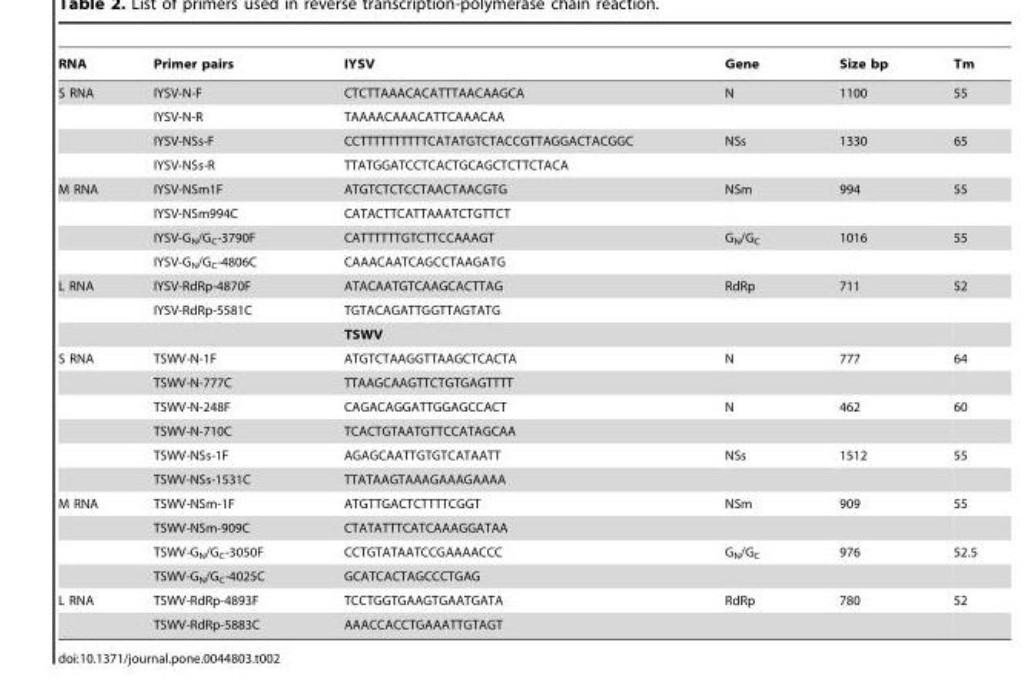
<table><thead><tr><td>RNA</td><td>Primer pairs</td><td>IYSV</td><td>Gene</td><td>Size bp</td><td>Tm</td></tr></thead><tbody><tr><td rowspan="4">S RNA</td><td>IYSV-N-F</td><td>CTCTTAAACACATTTAACAAGCA</td><td>N</td><td>1100</td><td>55</td></tr><tr><td>IYSV-N-R</td><td>TAAAACAAACATTCAAACAA</td><td></td><td></td><td></td></tr><tr><td>IYSV-NSs-F</td><td>CCTTTTTTTTTTCATATGTCTACCGTTAGGACTACGGC</td><td>NSs</td><td>1330</td><td>65</td></tr><tr><td>IYSV-NSs-R</td><td>TTATGGATCCTCACTGCAGCTCTTCTACA</td><td></td><td></td><td></td></tr><tr><td rowspan="4">M RNA</td><td>IYSV-NSm1F</td><td>ATGTCTCTCCTAACTAACGTG</td><td>NSm</td><td>994</td><td>55</td></tr><tr><td>IYSV-NSm994C</td><td>CATACTTCATTAAATCTGTTCT</td><td></td><td></td><td></td></tr><tr><td>IYSV-G<sub>N</sub>/G<sub>C</sub>-3790F</td><td>CATTTTTTGTCTTCCAAAGT</td><td>G<sub>N</sub>/G<sub>C</sub></td><td>1016</td><td>55</td></tr><tr><td>IYSV-G<sub>N</sub>/G<sub>C</sub>-4806C</td><td>CAAACAATCAGCCTAAGATG</td><td></td><td></td><td></td></tr><tr><td rowspan="3">L RNA</td><td>IYSV-RdRp-4870F</td><td>ATACAATGTCAAGCACTTAG</td><td>RdRp</td><td>711</td><td>52</td></tr><tr><td>IYSV-RdRp-5581C</td><td>TGTACAGATTGGTTAGTATG</td><td></td><td></td><td></td></tr><tr><td></td><td>TSWV</td><td></td><td></td><td></td></tr><tr><td rowspan="6">S RNA</td><td>TSWV-N-1F</td><td>ATGTCTAAGGTTAAGCTCACTA</td><td>N</td><td>777</td><td>64</td></tr><tr><td>TSWV-N-777C</td><td>TTAAGCAAGTTCTGTGAGTTTT</td><td></td><td></td><td></td></tr><tr><td>TSWV-N-248F</td><td>CAGACAGGATTGGAGCCACT</td><td>N</td><td>462</td><td>60</td></tr><tr><td>TSWV-N-710C</td><td>TCACTGTAATGTTCCATAGCAA</td><td></td><td></td><td></td></tr><tr><td>TSWV-NSs-1F</td><td>AGAGCAATTGTGTCATAATT</td><td>NSs</td><td>1512</td><td>55</td></tr><tr><td>TSWV-NSs-1531C</td><td>TTATAAGTAAAGAAAGAAAA</td><td></td><td></td><td></td></tr><tr><td rowspan="4">M RNA</td><td>TSWV-NSm-1F</td><td>ATGTTGACTCTTTTCGGT</td><td>NSm</td><td>909</td><td>55</td></tr><tr><td>TSWV-NSm-909C</td><td>CTATATTTCATCAAAGGATAA</td><td></td><td></td><td></td></tr><tr><td>TSWV-G<sub>N</sub>/G<sub>C</sub>-3050F</td><td>CCTGTATAATCCGAAAACCC</td><td>G<sub>N</sub>/G<sub>C</sub></td><td>976</td><td>52.5</td></tr><tr><td>TSWV-G<sub>N</sub>/G<sub>C</sub>-4025C</td><td>GCATCACTAGCCCTGAG</td><td></td><td></td><td></td></tr><tr><td rowspan="2">L RNA</td><td>TSWV-RdRp-4893F</td><td>TCCTGGTGAAGTGAATGATA</td><td>RdRp</td><td>780</td><td>52</td></tr><tr><td>TSWV-RdRp-5883C</td><td>AAACCACCTGAAATTGTAGT</td><td></td><td></td><td></td></tr></tbody></table>